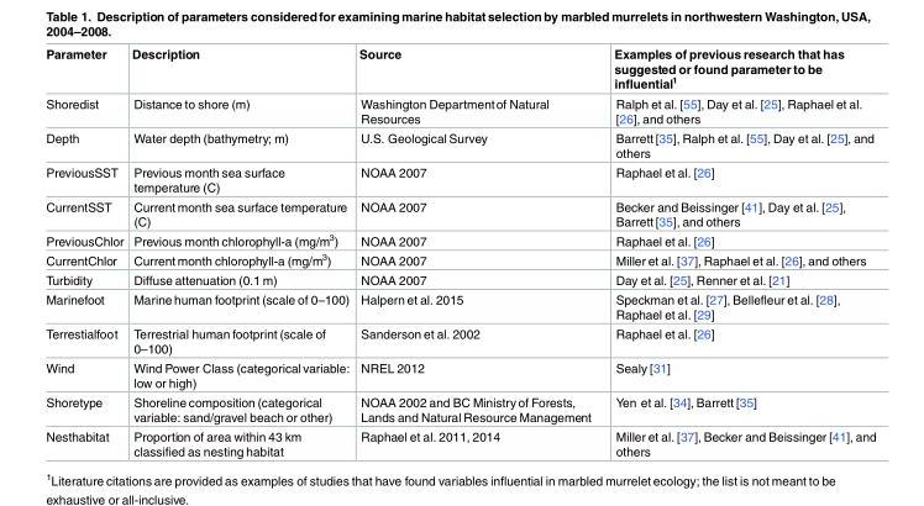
<table><thead><tr><td>Parameter</td><td>Description</td><td>Source</td><td>Examples of previous research that has suggested or found parameter to be influential<sup>1</sup></td></tr></thead><tbody><tr><td>Shoredist</td><td>Distance to shore (m)</td><td>Washington Departmentof Natural Resources</td><td>Ralph et al. [55], Day et al. [25], Raphael et al. [26], and others</td></tr><tr><td>Depth</td><td>Water depth (bathymetry; m)</td><td>U.S. Geological Survey</td><td>Barrett [35], Ralph et al. [55], Day et al. [25], and others</td></tr><tr><td>PreviousSST</td><td>Previous month sea surface temperature (C)</td><td>NOAA 2007</td><td>Raphael et al. [26]</td></tr><tr><td>CurrentSST</td><td>Current month sea surface temperature (C)</td><td>NOAA 2007</td><td>Becker and Beissinger [41], Day et al. [25], Barrett [35], and others</td></tr><tr><td>PreviousChlor</td><td>Previous month chlorophyll-a (mg/m<sup>3</sup>)</td><td>NOAA 2007</td><td>Raphael et al. [26]</td></tr><tr><td>CurrentChlor</td><td>Current month chlorophyll-a (mg/m<sup>3</sup>)</td><td>NOAA 2007</td><td>Miller et al. [37], Raphael et al. [26], and others</td></tr><tr><td>Turbidity</td><td>Diffuse attenuation (0.1 m)</td><td>NOAA 2007</td><td>Day et al. [25], Renner et al. [21]</td></tr><tr><td>Marinefoot</td><td>Marine human footprint (scale of 0–100)</td><td>Halpern et al. 2015</td><td>Speckman et al. [27], Bellefleur et al. [28], Raphael et al. [29]</td></tr><tr><td>Terrestialfoot</td><td>Terrestrial human footprint (scale of 0–100)</td><td>Sanderson et al. 2002</td><td>Raphael et al. [26]</td></tr><tr><td>Wind</td><td>Wind Power Class (categoricalvariable: low or high)</td><td>NREL 2012</td><td>Sealy [31]</td></tr><tr><td>Shoretype</td><td>Shoreline composition (categorical variable: sand/gravel beach or other)</td><td>NOAA 2002 and BC Ministry of Forests, Lands and Natural Resource Management</td><td>Yen et al. [34], Barrett [35]</td></tr><tr><td>Nesthabitat</td><td>Proportion of area within 43 km classified as nesting habitat</td><td>Raphael et al. 2011, 2014</td><td>Miller et al. [37], Becker and Beissinger [41], and others</td></tr></tbody></table>